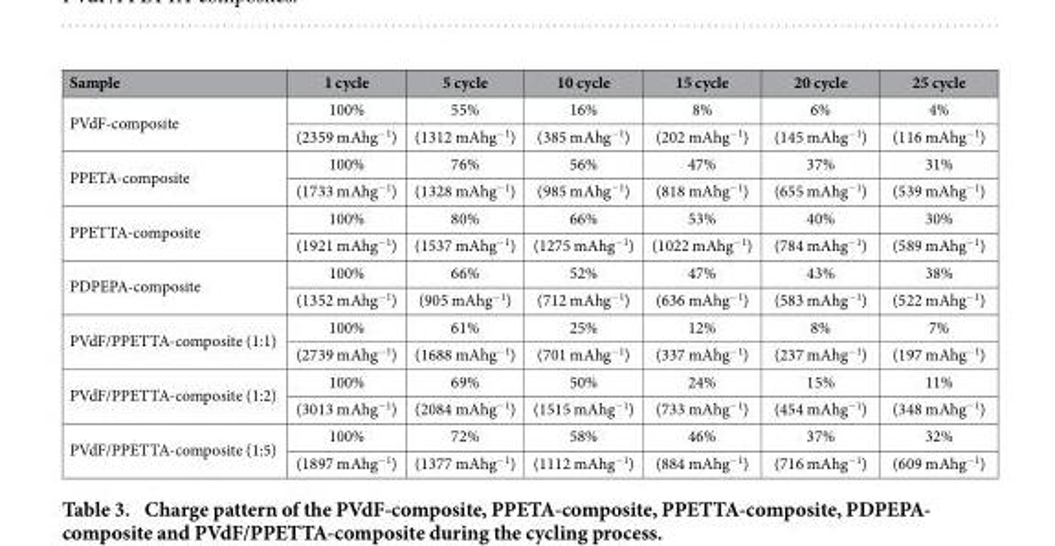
<table><thead><tr><td>Sample</td><td>1 cycle</td><td>5 cycle</td><td>10 cycle</td><td>15 cycle</td><td>20 cycle</td><td>25 cycle</td></tr></thead><tbody><tr><td rowspan="2">PVdF-composite</td><td>100%</td><td>55%</td><td>16%</td><td>8%</td><td>6%</td><td>4%</td></tr><tr><td>(2359 mAhg<sup>−1</sup>)</td><td>(1312 mAhg<sup>−1</sup>)</td><td>(385 mAhg<sup>−1</sup>)</td><td>(202 mAhg<sup>−1</sup>)</td><td>(145 mAhg<sup>−1</sup>)</td><td>(116 mAhg<sup>−1</sup>)</td></tr><tr><td rowspan="2">PPETA-composite</td><td>100%</td><td>76%</td><td>56%</td><td>47%</td><td>37%</td><td>31%</td></tr><tr><td>(1733 mAhg<sup>−1</sup>)</td><td>(1328 mAhg<sup>−1</sup>)</td><td>(985 mAhg<sup>−1</sup>)</td><td>(818 mAhg<sup>−1</sup>)</td><td>(655 mAhg<sup>−1</sup>)</td><td>(539 mAhg<sup>−1</sup>)</td></tr><tr><td rowspan="2">PPETTA-composite</td><td>100%</td><td>80%</td><td>66%</td><td>53%</td><td>40%</td><td>30%</td></tr><tr><td>(1921 mAhg<sup>−1</sup>)</td><td>(1537 mAhg<sup>−1</sup>)</td><td>(1275 mAhg<sup>−1</sup>)</td><td>(1022 mAhg<sup>−1</sup>)</td><td>(784 mAhg<sup>−1</sup>)</td><td>(589 mAhg<sup>−1</sup>)</td></tr><tr><td rowspan="2">PDPEPA-composite</td><td>100%</td><td>66%</td><td>52%</td><td>47%</td><td>43%</td><td>38%</td></tr><tr><td>(1352 mAhg<sup>−1</sup>)</td><td>(905 mAhg<sup>−1</sup>)</td><td>(712 mAhg<sup>−1</sup>)</td><td>(636 mAhg<sup>−1</sup>)</td><td>(583 mAhg<sup>−1</sup>)</td><td>(522 mAhg<sup>−1</sup>)</td></tr><tr><td rowspan="2">PVdF/PPETTA-composite (1:1)</td><td>100%</td><td>61%</td><td>25%</td><td>12%</td><td>8%</td><td>7%</td></tr><tr><td>(2739 mAhg<sup>−1</sup>)</td><td>(1688 mAhg<sup>−1</sup>)</td><td>(701 mAhg<sup>−1</sup>)</td><td>(337 mAhg<sup>−1</sup>)</td><td>(237 mAhg<sup>−1</sup>)</td><td>(197 mAhg<sup>−1</sup>)</td></tr><tr><td rowspan="2">PVdF/PPETTA-composite (1:2)</td><td>100%</td><td>69%</td><td>50%</td><td>24%</td><td>15%</td><td>11%</td></tr><tr><td>(3013 mAhg<sup>−1</sup>)</td><td>(2084 mAhg<sup>−1</sup>)</td><td>(1515 mAhg<sup>−1</sup>)</td><td>(733 mAhg<sup>−1</sup>)</td><td>(454 mAhg<sup>−1</sup>)</td><td>(348 mAhg<sup>−1</sup>)</td></tr><tr><td rowspan="2">PVdF/PPETTA-composite (1:5)</td><td>100%</td><td>72%</td><td>58%</td><td>46%</td><td>37%</td><td>32%</td></tr><tr><td>(1897 mAhg<sup>−1</sup>)</td><td>(1377 mAhg<sup>−1</sup>)</td><td>(1112 mAhg<sup>−1</sup>)</td><td>(884 mAhg<sup>−1</sup>)</td><td>(716 mAhg<sup>−1</sup>)</td><td>(609 mAhg<sup>−1</sup>)</td></tr></tbody></table>